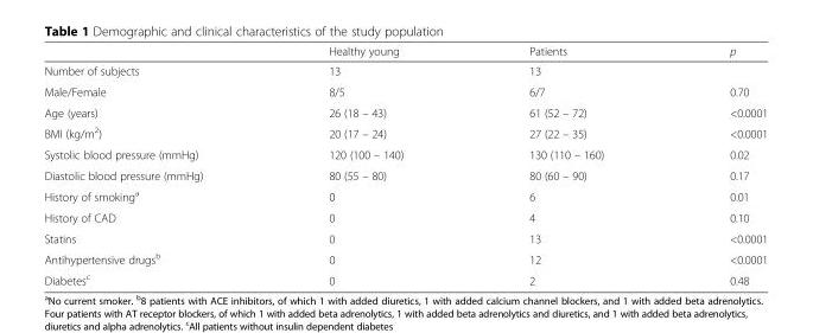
<table><thead><tr><td></td><td>Healthy young</td><td>Patients</td><td>p</td></tr></thead><tbody><tr><td>Number of subjects</td><td>13</td><td>13</td><td></td></tr><tr><td>Male/Female</td><td>8/5</td><td>6/7</td><td>0.70</td></tr><tr><td>Age (years)</td><td>26 (18 – 43)</td><td>61 (52 – 72)</td><td>&lt;0.0001</td></tr><tr><td>BMI (kg/m<sup>2</sup>)</td><td>20 (17 – 24)</td><td>27 (22 – 35)</td><td>&lt;0.0001</td></tr><tr><td>Systolic blood pressure (mmHg)</td><td>120 (100 – 140)</td><td>130 (110 – 160)</td><td>0.02</td></tr><tr><td>Diastolic blood pressure (mmHg)</td><td>80 (55 – 80)</td><td>80 (60 – 90)</td><td>0.17</td></tr><tr><td>History of smoking<sup>a</sup></td><td>0</td><td>6</td><td>0.01</td></tr><tr><td>History of CAD</td><td>0</td><td>4</td><td>0.10</td></tr><tr><td>Statins</td><td>0</td><td>13</td><td>&lt;0.0001</td></tr><tr><td>Antihypertensive drugs<sup>b</sup></td><td>0</td><td>12</td><td>&lt;0.0001</td></tr><tr><td>Diabetes<sup>c</sup></td><td>0</td><td>2</td><td>0.48</td></tr></tbody></table>